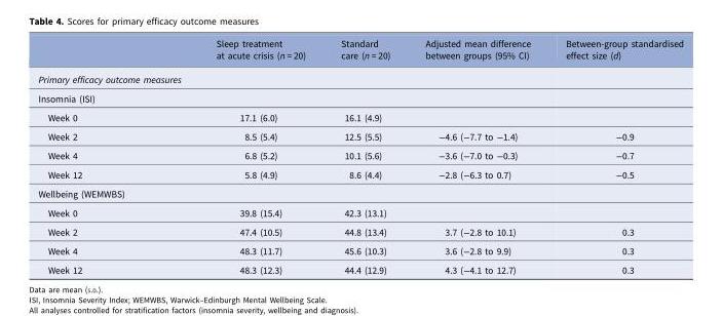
<table><thead><tr><td></td><td>Sleep treatment at acute crisis (n = 20)</td><td>Standard care (n = 20)</td><td>Adjusted mean difference between groups (95% CI)</td><td>Between-group standardised effect size (d)</td></tr></thead><tbody><tr><td colspan="5">Primary efficacy outcome measures</td></tr><tr><td colspan="5">Insomnia (ISI)</td></tr><tr><td>Week 0</td><td>17.1 (6.0)</td><td>16.1 (4.9)</td><td></td><td></td></tr><tr><td>Week 2</td><td>8.5 (5.4)</td><td>12.5 (5.5)</td><td>−4.6 (−7.7 to −1.4)</td><td>−0.9</td></tr><tr><td>Week 4</td><td>6.8 (5.2)</td><td>10.1 (5.6)</td><td>−3.6 (−7.0 to −0.3)</td><td>−0.7</td></tr><tr><td>Week 12</td><td>5.8 (4.9)</td><td>8.6 (4.4)</td><td>−2.8 (−6.3 to 0.7)</td><td>−0.5</td></tr><tr><td colspan="5">Wellbeing (WEMWBS)</td></tr><tr><td>Week 0</td><td>39.8 (15.4)</td><td>42.3 (13.1)</td><td></td><td></td></tr><tr><td>Week 2</td><td>47.4 (10.5)</td><td>44.8 (13.4)</td><td>3.7 (−2.8 to 10.1)</td><td>0.3</td></tr><tr><td>Week 4</td><td>48.3 (11.7)</td><td>45.6 (10.3)</td><td>3.6 (−2.8 to 9.9)</td><td>0.3</td></tr><tr><td>Week 12</td><td>48.3 (12.3)</td><td>44.4 (12.9)</td><td>4.3 (−4.1 to 12.7)</td><td>0.3</td></tr></tbody></table>